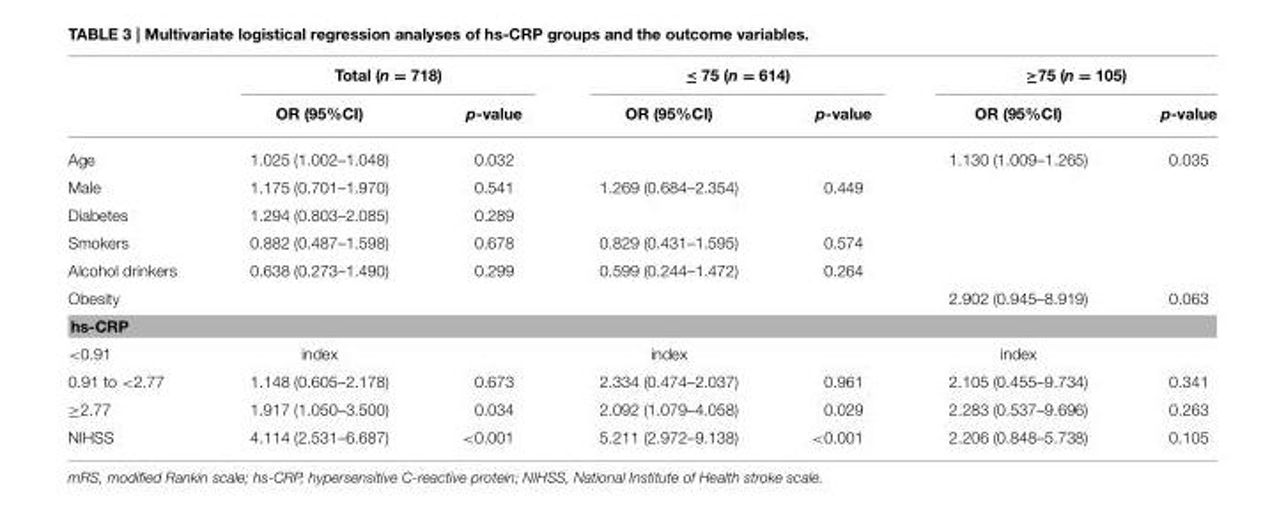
<table><thead><tr><td rowspan="2"></td><td colspan="2">Total (n = 718)</td><td colspan="2">≤ 75 (n = 614)</td><td colspan="2">≥75 (n = 105)</td></tr><tr><td>OR (95%CI)</td><td>p-value</td><td>OR (95%CI)</td><td>p-value</td><td>OR (95%CI)</td><td>p-value</td></tr></thead><tbody><tr><td>Age</td><td>1.025 (1.002–1.048)</td><td>0.032</td><td></td><td></td><td>1.130 (1.009–1.265)</td><td>0.035</td></tr><tr><td>Male</td><td>1.175 (0.701–1.970)</td><td>0.541</td><td>1.269 (0.684–2.354)</td><td>0.449</td><td></td><td></td></tr><tr><td>Diabetes</td><td>1.294 (0.803–2.085)</td><td>0.289</td><td></td><td></td><td></td><td></td></tr><tr><td>Smokers</td><td>0.882 (0.487–1.598)</td><td>0.678</td><td>0.829 (0.431–1.595)</td><td>0.574</td><td></td><td></td></tr><tr><td>Alcohol drinkers</td><td>0.638 (0.273–1.490)</td><td>0.299</td><td>0.599 (0.244–1.472)</td><td>0.264</td><td></td><td></td></tr><tr><td>Obesity</td><td></td><td></td><td></td><td></td><td>2.902 (0.945–8.919)</td><td>0.063</td></tr><tr><td colspan="7">hs-CRP</td></tr><tr><td>&lt;0.91</td><td>index</td><td></td><td>index</td><td></td><td>index</td><td></td></tr><tr><td>0.91 to &lt;2.77</td><td>1.148 (0.605–2.178)</td><td>0.673</td><td>2.334 (0.474–2.037)</td><td>0.961</td><td>2.105 (0.455–9.734)</td><td>0.341</td></tr><tr><td>≥2.77</td><td>1.917 (1.050–3.500)</td><td>0.034</td><td>2.092 (1.079–4.058)</td><td>0.029</td><td>2.283 (0.537–9.696)</td><td>0.263</td></tr><tr><td>NIHSS</td><td>4.114 (2.531–6.687)</td><td>&lt;0.001</td><td>5.211 (2.972–9.138)</td><td>&lt;0.001</td><td>2.206 (0.848–5.738)</td><td>0.105</td></tr></tbody></table>